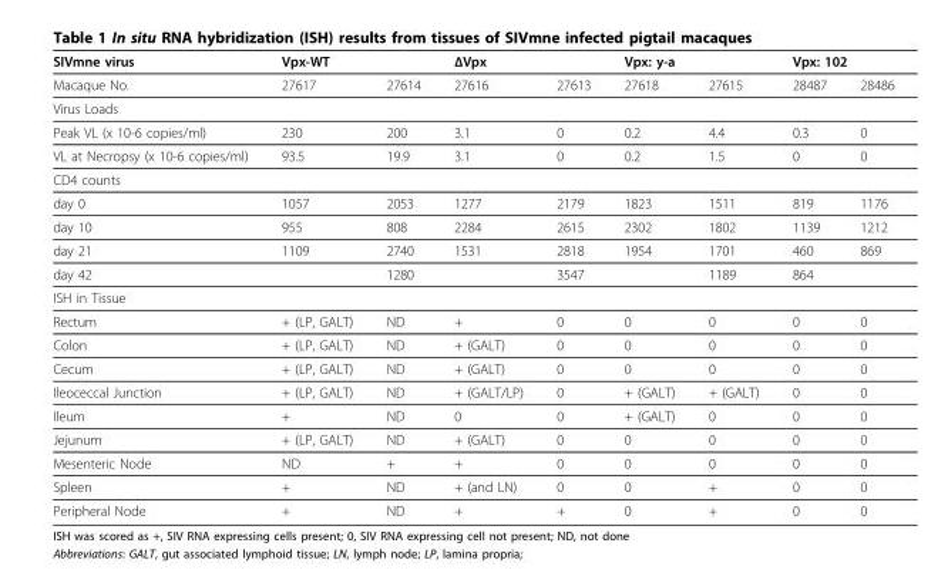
<table><thead><tr><td rowspan="2">SIVmne virus Macaque No.</td><td colspan="2">Vpx-WT</td><td colspan="2">ΔVpx</td><td colspan="2">Vpx: y-a</td><td colspan="2">Vpx: 102</td></tr><tr><td>27617</td><td>27614</td><td>27616</td><td>27613</td><td>27618</td><td>27615</td><td>28487</td><td>28486</td></tr></thead><tbody><tr><td colspan="9">Virus Loads</td></tr><tr><td>Peak VL (x 10-6 copies/ml)</td><td>230</td><td>200</td><td>3.1</td><td>0</td><td>0.2</td><td>4.4</td><td>0.3</td><td>0</td></tr><tr><td>VL at Necropsy (x 10-6 copies/ml)</td><td>93.5</td><td>19.9</td><td>3.1</td><td>0</td><td>0.2</td><td>1.5</td><td>0</td><td>0</td></tr><tr><td colspan="9">CD4 counts</td></tr><tr><td>day 0</td><td>1057</td><td>2053</td><td>1277</td><td>2179</td><td>1823</td><td>1511</td><td>819</td><td>1176</td></tr><tr><td>day 10</td><td>955</td><td>808</td><td>2284</td><td>2615</td><td>2302</td><td>1802</td><td>1139</td><td>1212</td></tr><tr><td>day 21</td><td>1109</td><td>2740</td><td>1531</td><td>2818</td><td>1954</td><td>1701</td><td>460</td><td>869</td></tr><tr><td>day 42</td><td></td><td>1280</td><td></td><td>3547</td><td></td><td>1189</td><td>864</td><td></td></tr><tr><td colspan="9">ISH in Tissue</td></tr><tr><td>Rectum</td><td>+ (LP, GALT)</td><td>ND</td><td>+</td><td>0</td><td>0</td><td>0</td><td>0</td><td>0</td></tr><tr><td>Colon</td><td>+ (LP, GALT)</td><td>ND</td><td>+ (GALT)</td><td>0</td><td>0</td><td>0</td><td>0</td><td>0</td></tr><tr><td>Cecum</td><td>+ (LP, GALT)</td><td>ND</td><td>+ (GALT)</td><td>0</td><td>0</td><td>0</td><td>0</td><td>0</td></tr><tr><td>Ileoceccal Junction</td><td>+ (LP, GALT)</td><td>ND</td><td>+ (GALT/LP)</td><td>0</td><td>+ (GALT)</td><td>+ (GALT)</td><td>0</td><td>0</td></tr><tr><td>Ileum</td><td>+</td><td>ND</td><td>0</td><td>0</td><td>+ (GALT)</td><td>0</td><td>0</td><td>0</td></tr><tr><td>Jejunum</td><td>+ (LP, GALT)</td><td>ND</td><td>+ (GALT)</td><td>0</td><td>0</td><td>0</td><td>0</td><td>0</td></tr><tr><td>Mesenteric Node</td><td>ND</td><td>+</td><td>+</td><td>0</td><td>0</td><td>0</td><td>0</td><td>0</td></tr><tr><td>Spleen</td><td>+</td><td>ND</td><td>+ (and LN)</td><td>0</td><td>0</td><td>+</td><td>0</td><td>0</td></tr><tr><td>Peripheral Node</td><td>+</td><td>ND</td><td>+</td><td>+</td><td>0</td><td>+</td><td>0</td><td>0</td></tr></tbody></table>